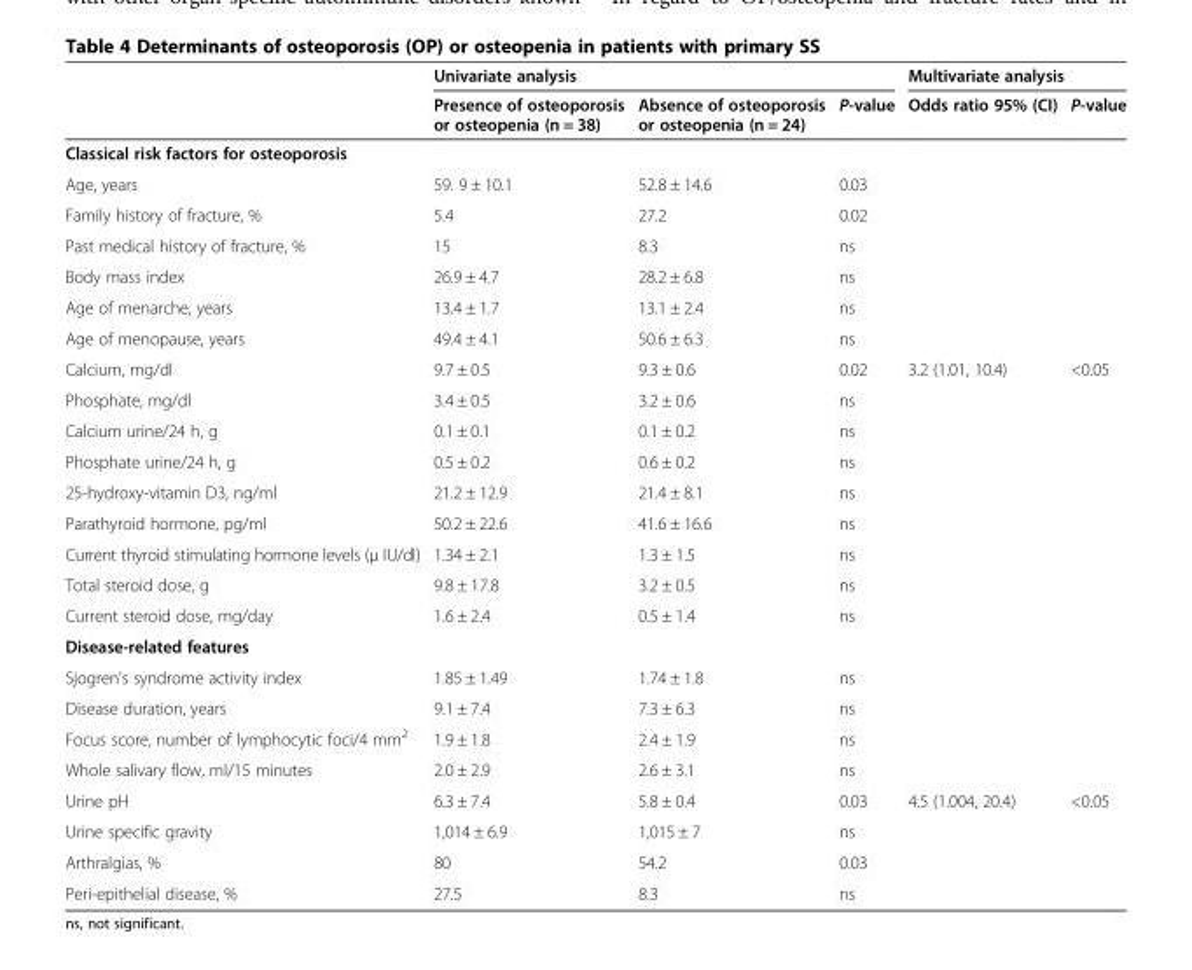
<table><thead><tr><td rowspan="2"></td><td colspan="3">Univariate analysis</td><td colspan="2">Multivariate analysis</td></tr><tr><td>Presence of osteoporosis or osteopenia (n = 38)</td><td>Absence of osteoporosis or osteopenia (n = 24)</td><td>P-value</td><td>Odds ratio 95% (CI)</td><td>P-value</td></tr></thead><tbody><tr><td colspan="6">Classical risk factors for osteoporosis</td></tr><tr><td>Age, years</td><td>59. 9 ± 10.1</td><td>52.8 ± 14.6</td><td>0.03</td><td></td><td></td></tr><tr><td>Family history of fracture, %</td><td>5.4</td><td>27.2</td><td>0.02</td><td></td><td></td></tr><tr><td>Past medical history of fracture, %</td><td>15</td><td>8.3</td><td>ns</td><td></td><td></td></tr><tr><td>Body mass index</td><td>26.9 ± 4.7</td><td>28.2 ± 6.8</td><td>ns</td><td></td><td></td></tr><tr><td>Age of menarche, years</td><td>13.4 ± 1.7</td><td>13.1 ± 2.4</td><td>ns</td><td></td><td></td></tr><tr><td>Age of menopause, years</td><td>49.4 ± 4.1</td><td>50.6 ± 6.3</td><td>ns</td><td></td><td></td></tr><tr><td>Calcium, mg/dl</td><td>9.7 ± 0.5</td><td>9.3 ± 0.6</td><td>0.02</td><td>3.2 (1.01, 10.4)</td><td>&lt;0.05</td></tr><tr><td>Phosphate, mg/dl</td><td>3.4 ± 0.5</td><td>3.2 ± 0.6</td><td>ns</td><td></td><td></td></tr><tr><td>Calcium urine/24 h, g</td><td>0.1 ± 0.1</td><td>0.1 ± 0.2</td><td>ns</td><td></td><td></td></tr><tr><td>Phosphate urine/24 h, g</td><td>0.5 ± 0.2</td><td>0.6 ± 0.2</td><td>ns</td><td></td><td></td></tr><tr><td>25-hydroxy-vitamin D3, ng/ml</td><td>21.2 ± 12.9</td><td>21.4 ± 8.1</td><td>ns</td><td></td><td></td></tr><tr><td>Parathyroid hormone, pg/ml</td><td>50.2 ± 22.6</td><td>41.6 ± 16.6</td><td>ns</td><td></td><td></td></tr><tr><td>Current thyroid stimulating hormone levels (μ IU/dl)</td><td>1.34 ± 2.1</td><td>1.3 ± 1.5</td><td>ns</td><td></td><td></td></tr><tr><td>Total steroid dose, g</td><td>9.8 ± 17.8</td><td>3.2 ± 0.5</td><td>ns</td><td></td><td></td></tr><tr><td>Current steroid dose, mg/day</td><td>1.6 ± 2.4</td><td>0.5 ± 1.4</td><td>ns</td><td></td><td></td></tr><tr><td colspan="6">Disease-related features</td></tr><tr><td>Sjogren&#x27;s syndrome activity index</td><td>1.85 ± 1.49</td><td>1.74 ± 1.8</td><td>ns</td><td></td><td></td></tr><tr><td>Disease duration, years</td><td>9.1 ± 7.4</td><td>7.3 ± 6.3</td><td>ns</td><td></td><td></td></tr><tr><td>Focus score, number of lymphocytic foci/4 mm<sup>2</sup></td><td>1.9 ± 1.8</td><td>2.4 ± 1.9</td><td>ns</td><td></td><td></td></tr><tr><td>Whole salivary flow, ml/15 minutes</td><td>2.0 ± 2.9</td><td>2.6 ± 3.1</td><td>ns</td><td></td><td></td></tr><tr><td>Urine pH</td><td>6.3 ± 7.4</td><td>5.8 ± 0.4</td><td>0.03</td><td>4.5 (1.004, 20.4)</td><td>&lt;0.05</td></tr><tr><td>Urine specific gravity</td><td>1,014 ± 6.9</td><td>1,015 ± 7</td><td>ns</td><td></td><td></td></tr><tr><td>Arthralgias, %</td><td>80</td><td>54.2</td><td>0.03</td><td></td><td></td></tr><tr><td>Peri-epithelial disease, %</td><td>27.5</td><td>8.3</td><td>ns</td><td></td><td></td></tr></tbody></table>